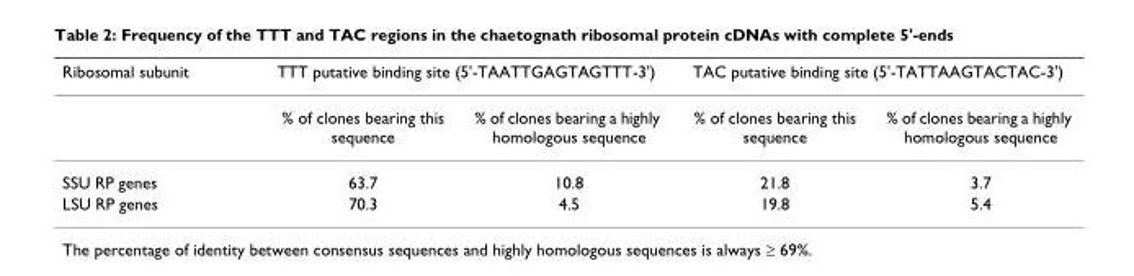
<table><thead><tr><td rowspan="2">Ribosomal subunit</td><td colspan="2">TTT putative binding site (5&#x27;-TAATTGAGTAGTTT-3&#x27;)</td><td colspan="2">TAC putative binding site (5&#x27;-TATTAAGTACTAC-3&#x27;)</td></tr><tr><td>% of clones bearing this sequence</td><td>% of clones bearing a highly homologous sequence</td><td>% of clones bearing this sequence</td><td>% of clones bearing a highly homologous sequence</td></tr></thead><tbody><tr><td>SSU RP genes</td><td>63.7</td><td>10.8</td><td>21.8</td><td>3.7</td></tr><tr><td>LSU RP genes</td><td>70.3</td><td>4.5</td><td>19.8</td><td>5.4</td></tr></tbody></table>